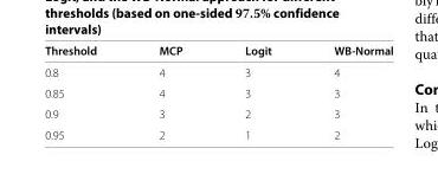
<table><thead><tr><td>Threshold</td><td>MCP</td><td>Logit</td><td>WB-Normal</td></tr></thead><tbody><tr><td>0.8</td><td>4</td><td>3</td><td>4</td></tr><tr><td>0.85</td><td>4</td><td>3</td><td>3</td></tr><tr><td>0.9</td><td>3</td><td>2</td><td>3</td></tr><tr><td>0.95</td><td>2</td><td>1</td><td>2</td></tr></tbody></table>